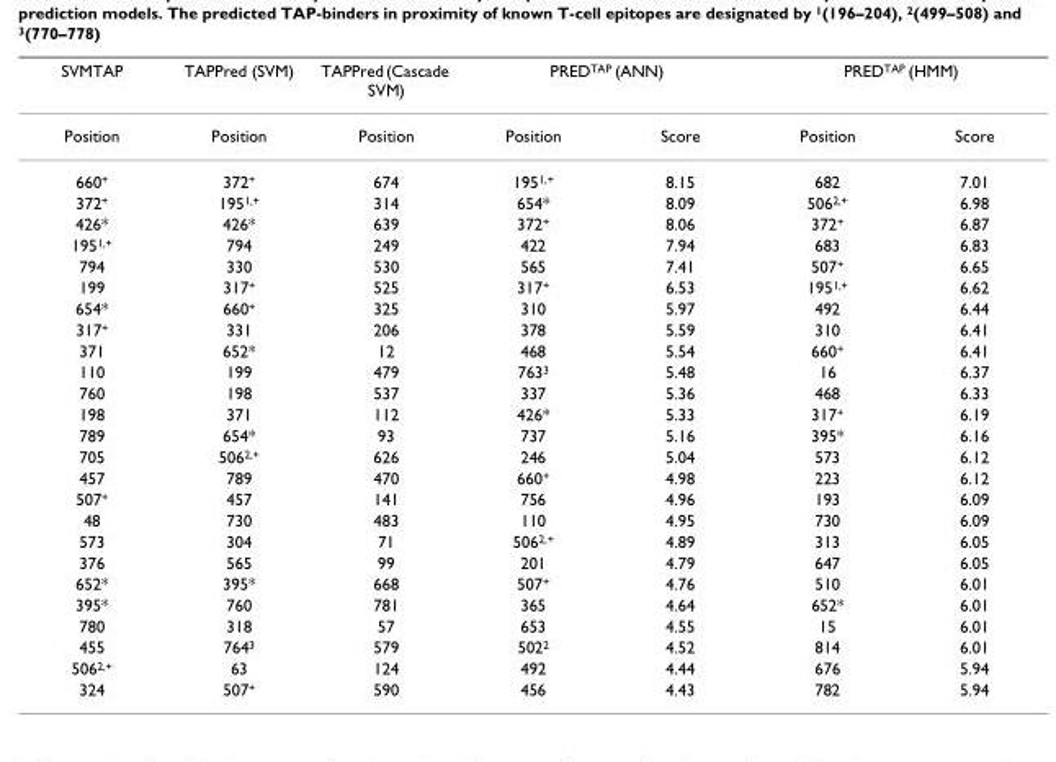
<table><thead><tr><td rowspan="2">SVMTAP Position</td><td rowspan="2">TAPPred (SVM) Position</td><td rowspan="2">TAPPred (Cascade SVM) Position</td><td colspan="2">PREDTAP (ANN)</td><td colspan="2">PREDTAP (HMM)</td></tr><tr><td>Position</td><td>Score</td><td>Position</td><td>Score</td></tr></thead><tbody><tr><td>660<sup>+</sup></td><td>372<sup>+</sup></td><td>674</td><td>195<sup>1,+</sup></td><td>8.15</td><td>682</td><td>7.01</td></tr><tr><td>372<sup>+</sup></td><td>195<sup>1,+</sup></td><td>314</td><td>654*</td><td>8.09</td><td>506<sup>2,+</sup></td><td>6.98</td></tr><tr><td>426*</td><td>426*</td><td>639</td><td>372<sup>+</sup></td><td>8.06</td><td>372<sup>+</sup></td><td>6.87</td></tr><tr><td>195<sup>1,+</sup></td><td>794</td><td>249</td><td>422</td><td>7.94</td><td>683</td><td>6.83</td></tr><tr><td>794</td><td>330</td><td>530</td><td>565</td><td>7.41</td><td>507<sup>+</sup></td><td>6.65</td></tr><tr><td>199</td><td>317<sup>+</sup></td><td>525</td><td>317<sup>+</sup></td><td>6.53</td><td>195<sup>1,+</sup></td><td>6.62</td></tr><tr><td>654*</td><td>660<sup>+</sup></td><td>325</td><td>310</td><td>5.97</td><td>492</td><td>6.44</td></tr><tr><td>317<sup>+</sup></td><td>331</td><td>206</td><td>378</td><td>5.59</td><td>310</td><td>6.41</td></tr><tr><td>371</td><td>652*</td><td>12</td><td>468</td><td>5.54</td><td>660<sup>+</sup></td><td>6.41</td></tr><tr><td>110</td><td>199</td><td>479</td><td>763<sup>3</sup></td><td>5.48</td><td>16</td><td>6.37</td></tr><tr><td>760</td><td>198</td><td>537</td><td>337</td><td>5.36</td><td>468</td><td>6.33</td></tr><tr><td>198</td><td>371</td><td>112</td><td>426*</td><td>5.33</td><td>317<sup>+</sup></td><td>6.19</td></tr><tr><td>789</td><td>654*</td><td>93</td><td>737</td><td>5.16</td><td>395*</td><td>6.16</td></tr><tr><td>705</td><td>506<sup>2,+</sup></td><td>626</td><td>246</td><td>5.04</td><td>573</td><td>6.12</td></tr><tr><td>457</td><td>789</td><td>470</td><td>660<sup>+</sup></td><td>4.98</td><td>223</td><td>6.12</td></tr><tr><td>507<sup>+</sup></td><td>457</td><td>141</td><td>756</td><td>4.96</td><td>193</td><td>6.09</td></tr><tr><td>48</td><td>730</td><td>483</td><td>110</td><td>4.95</td><td>730</td><td>6.09</td></tr><tr><td>573</td><td>304</td><td>71</td><td>506<sup>2,+</sup></td><td>4.89</td><td>313</td><td>6.05</td></tr><tr><td>376</td><td>565</td><td>99</td><td>201</td><td>4.79</td><td>647</td><td>6.05</td></tr><tr><td>652*</td><td>395*</td><td>668</td><td>507<sup>+</sup></td><td>4.76</td><td>510</td><td>6.01</td></tr><tr><td>395*</td><td>760</td><td>781</td><td>365</td><td>4.64</td><td>652*</td><td>6.01</td></tr><tr><td>780</td><td>318</td><td>57</td><td>653</td><td>4.55</td><td>15</td><td>6.01</td></tr><tr><td>455</td><td>764<sup>3</sup></td><td>579</td><td>502<sup>2</sup></td><td>4.52</td><td>814</td><td>6.01</td></tr><tr><td>506<sup>2,+</sup></td><td>63</td><td>124</td><td>492</td><td>4.44</td><td>676</td><td>5.94</td></tr><tr><td>324</td><td>507<sup>+</sup></td><td>590</td><td>456</td><td>4.43</td><td>782</td><td>5.94</td></tr></tbody></table>